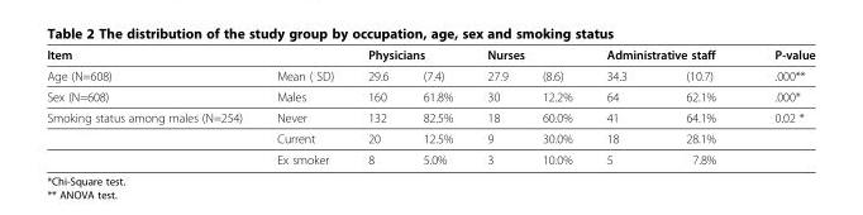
<table><thead><tr><td rowspan="2">Item Age (N=608)</td><td rowspan="2">Mean ( SD)</td><td colspan="2">Physicians</td><td colspan="2">Nurses</td><td colspan="2">Administrative staff</td><td rowspan="2">P-value .000**</td></tr><tr><td>29.6</td><td>(7.4)</td><td>27.9</td><td>(8.6)</td><td>34.3</td><td>(10.7)</td></tr></thead><tbody><tr><td>Sex (N=608)</td><td>Males</td><td>160</td><td>61.8%</td><td>30</td><td>12.2%</td><td>64</td><td>62.1%</td><td>.000*</td></tr><tr><td rowspan="3">Smoking status among males (N=254)</td><td>Never</td><td>132</td><td>82.5%</td><td>18</td><td>60.0%</td><td>41</td><td>64.1%</td><td>0.02 *</td></tr><tr><td>Current</td><td>20</td><td>12.5%</td><td>9</td><td>30.0%</td><td>18</td><td>28.1%</td><td></td></tr><tr><td>Ex smoker</td><td>8</td><td>5.0%</td><td>3</td><td>10.0%</td><td>5</td><td>7.8%</td><td></td></tr></tbody></table>